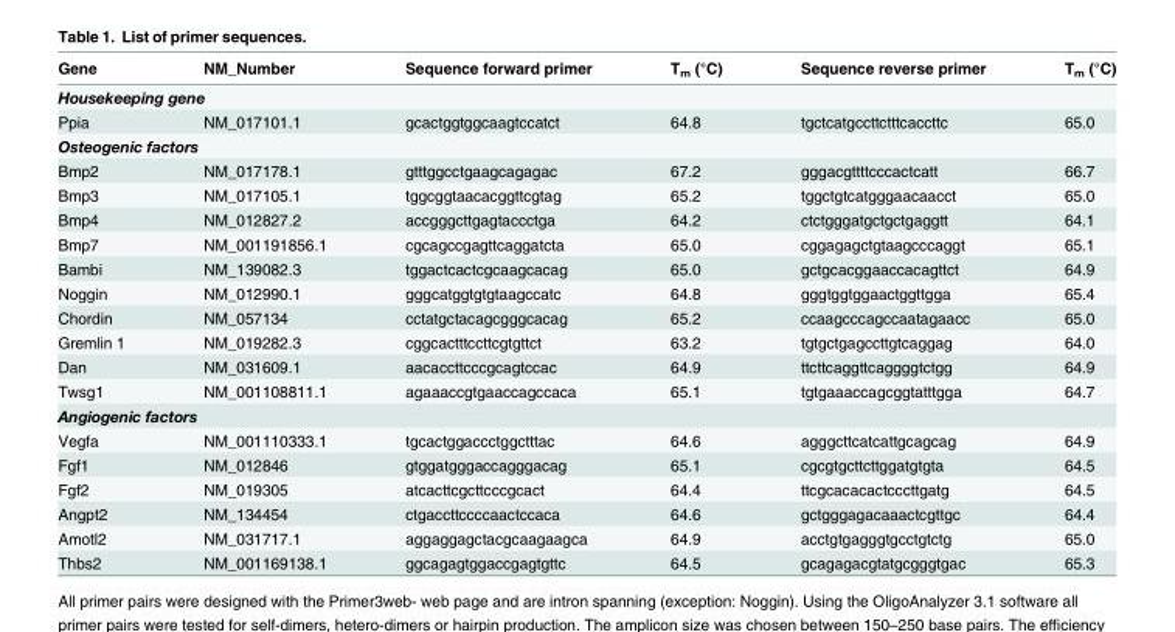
<table><thead><tr><td>Gene</td><td>NM_Number</td><td>Sequence forward primer</td><td>T<sub>m</sub> (°C)</td><td>Sequence reverse primer</td><td>T<sub>m</sub> (°C)</td></tr></thead><tbody><tr><td colspan="6">Housekeeping gene</td></tr><tr><td>Ppia</td><td>NM_017101.1</td><td>gcactggtggcaagtccatct</td><td>64.8</td><td>tgctcatgccttctttcaccttc</td><td>65.0</td></tr><tr><td colspan="6">Osteogenic factors</td></tr><tr><td>Bmp2</td><td>NM_017178.1</td><td>gtttggcctgaagcagagac</td><td>67.2</td><td>gggacgttttcccactcatt</td><td>66.7</td></tr><tr><td>Bmp3</td><td>NM_017105.1</td><td>tggcggtaacacggttcgtag</td><td>65.2</td><td>tggctgtcatgggaacaacct</td><td>65.0</td></tr><tr><td>Bmp4</td><td>NM_012827.2</td><td>accgggcttgagtaccctga</td><td>64.2</td><td>ctctgggatgctgctgaggtt</td><td>64.1</td></tr><tr><td>Bmp7</td><td>NM_001191856.1</td><td>cgcagccgagttcaggatcta</td><td>65.0</td><td>cggagagctgtaagcccaggt</td><td>65.1</td></tr><tr><td>Bambi</td><td>NM_139082.3</td><td>tggactcactcgcaagcacag</td><td>65.0</td><td>gctgcacggaaccacagttct</td><td>64.9</td></tr><tr><td>Noggin</td><td>NM_012990.1</td><td>gggcatggtgtgtaagccatc</td><td>64.8</td><td>gggtggtggaactggttgga</td><td>65.4</td></tr><tr><td>Chordin</td><td>NM_057134</td><td>cctatgctacagcgggcacag</td><td>65.2</td><td>ccaagcccagccaatagaacc</td><td>65.0</td></tr><tr><td>Gremlin 1</td><td>NM_019282.3</td><td>cggcactttccttcgtgttct</td><td>63.2</td><td>tgtgctgagccttgtcaggag</td><td>64.0</td></tr><tr><td>Dan</td><td>NM_031609.1</td><td>aacaccttcccgcagtccac</td><td>64.9</td><td>ttcttcaggttcaggggtctgg</td><td>64.9</td></tr><tr><td>Twsg1</td><td>NM_001108811.1</td><td>agaaaccgtgaaccagccaca</td><td>65.1</td><td>tgtgaaaccagcggtatttgga</td><td>64.7</td></tr><tr><td colspan="6">Angiogenic factors</td></tr><tr><td>Vegfa</td><td>NM_001110333.1</td><td>tgcactggaccctggctttac</td><td>64.6</td><td>agggcttcatcattgcagcag</td><td>64.9</td></tr><tr><td>Fgf1</td><td>NM_012846</td><td>gtggatgggaccagggacag</td><td>65.1</td><td>cgcgtgcttcttggatgtgta</td><td>64.5</td></tr><tr><td>Fgf2</td><td>NM_019305</td><td>atcacttcgcttcccgcact</td><td>64.4</td><td>ttcgcacacactcccttgatg</td><td>64.5</td></tr><tr><td>Angpt2</td><td>NM_134454</td><td>ctgaccttccccaactccaca</td><td>64.6</td><td>gctgggagacaaactcgttgc</td><td>64.4</td></tr><tr><td>Amotl2</td><td>NM_031717.1</td><td>aggaggagctacgcaagaagca</td><td>64.9</td><td>acctgtgagggtgcctgtctg</td><td>65.0</td></tr><tr><td>Thbs2</td><td>NM_001169138.1</td><td>ggcagagtggaccgagtgttc</td><td>64.5</td><td>gcagagacgtatgcgggtgac</td><td>65.3</td></tr></tbody></table>